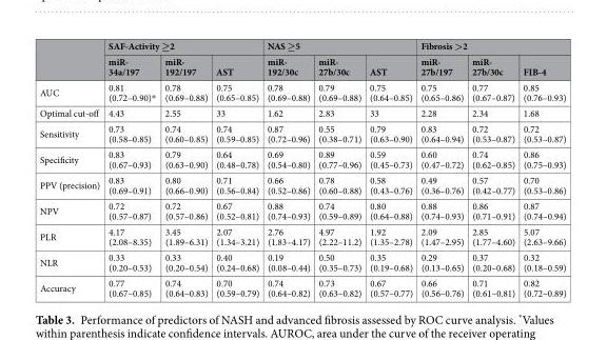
<table><thead><tr><td rowspan="2"></td><td colspan="3">SAF-Activity ≥2</td><td colspan="3">NAS ≥5</td><td colspan="3">Fibrosis &gt;2</td></tr><tr><td>miR- 34a/197</td><td>miR- 192/197</td><td>AST</td><td>miR- 192/30c</td><td>miR- 27b/30c</td><td>AST</td><td>miR- 27b/197</td><td>miR- 27b/30c</td><td>FIB-4</td></tr></thead><tbody><tr><td>AUC</td><td>0.81 (0.72–0.90)*</td><td>0.78 (0.69–0.88)</td><td>0.75 (0.65–0.85)</td><td>0.78 (0.69–0.88)</td><td>0.79 (0.69–0.88)</td><td>0.75 (0.64–0.85)</td><td>0.75 (0.65–0.86)</td><td>0.77 (0.67–0.87)</td><td>0.85 (0.76–0.93)</td></tr><tr><td>Optimal cut-off</td><td>4.43</td><td>2.55</td><td>33</td><td>1.62</td><td>2.83</td><td>33</td><td>2.28</td><td>2.34</td><td>1.68</td></tr><tr><td>Sensitivity</td><td>0.73 (0.58–0.85)</td><td>0.74 (0.60–0.85)</td><td>0.74 (0.59–0.85)</td><td>0.87 (0.72–0.96)</td><td>0.55 (0.38–0.71)</td><td>0.79 (0.63–0.90)</td><td>0.83 (0.64–0.94)</td><td>0.72 (0.53–0.87)</td><td>0.72 (0.53–0.87)</td></tr><tr><td>Specificity</td><td>0.83 (0.67–0.93)</td><td>0.79 (0.63–0.90)</td><td>0.64 (0.48–0.78)</td><td>0.69 (0.54–0.80)</td><td>0.89 (0.77–0.96)</td><td>0.59 (0.45–0.73)</td><td>0.60 (0.47–0.72)</td><td>0.74 (0.62–0.85)</td><td>0.86 (0.75–0.93)</td></tr><tr><td>PPV (precision)</td><td>0.83 (0.69–0.91)</td><td>0.80 (0.66–0.90)</td><td>0.71 (0.56–0.84)</td><td>0.66 (0.52–0.86)</td><td>0.78 (0.60–0.88)</td><td>0.58 (0.43–0.76)</td><td>0.49 (0.36–0.76)</td><td>0.57 (0.42–0.77)</td><td>0.70 (0.53–0.86)</td></tr><tr><td>NPV</td><td>0.72 (0.57–0.87)</td><td>0.72 (0.57–0.86)</td><td>0.67 (0.52–0.81)</td><td>0.88 (0.74–0.93)</td><td>0.74 (0.59–0.89)</td><td>0.80 (0.64–0.88)</td><td>0.88 (0.74–0.93)</td><td>0.86 (0.71–0.91)</td><td>0.87 (0.74–0.94)</td></tr><tr><td>PLR</td><td>4.17 (2.08–8.35)</td><td>3.45 (1.89–6.31)</td><td>2.07 (1.34–3.21)</td><td>2.76 (1.83–4.17)</td><td>4.97 (2.22–11.2)</td><td>1.92 (1.35–2.78)</td><td>2.09 (1.47–2.95)</td><td>2.85 (1.77–4.60)</td><td>5.07 (2.63–9.66)</td></tr><tr><td>NLR</td><td>0.33 (0.20–0.53)</td><td>0.33 (0.20–0.54)</td><td>0.40 (0.24–0.68)</td><td>0.19 (0.08–0.44)</td><td>0.50 (0.35–0.73)</td><td>0.35 (0.19–0.68)</td><td>0.29 (0.13–0.65)</td><td>0.37 (0.20–0.68)</td><td>0.32 (0.18–0.59)</td></tr><tr><td>Accuracy</td><td>0.77 (0.67–0.85)</td><td>0.74 (0.64–0.83)</td><td>0.70 (0.59–0.79)</td><td>0.74 (0.64–0.82)</td><td>0.73 (0.63–0.82)</td><td>0.67 (0.57–0.77)</td><td>0.66 (0.56–0.76)</td><td>0.71 (0.61–0.81)</td><td>0.82 (0.72–0.89)</td></tr></tbody></table>